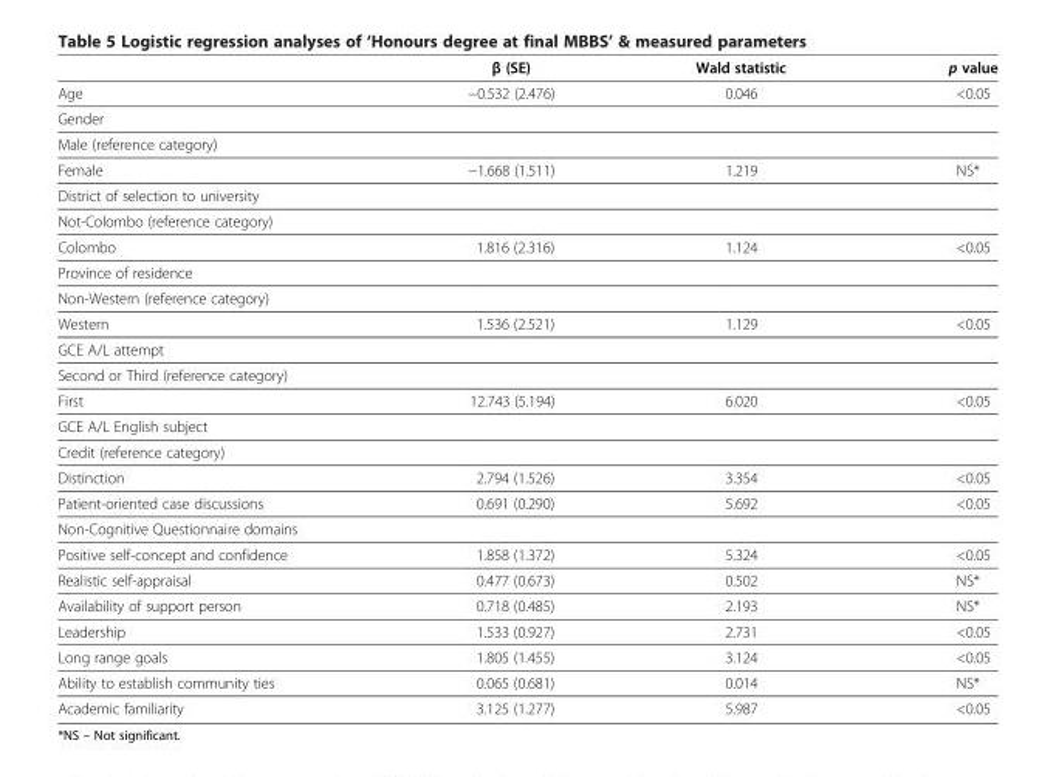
<table><thead><tr><td></td><td>β (SE)</td><td>Wald statistic</td><td>p value</td></tr></thead><tbody><tr><td>Age</td><td>−0.532 (2.476)</td><td>0.046</td><td>&lt;0.05</td></tr><tr><td colspan="4">Gender</td></tr><tr><td colspan="4">Male (reference category)</td></tr><tr><td>Female</td><td>−1.668 (1.511)</td><td>1.219</td><td>NS*</td></tr><tr><td colspan="4">District of selection to university</td></tr><tr><td colspan="4">Not-Colombo (reference category)</td></tr><tr><td>Colombo</td><td>1.816 (2.316)</td><td>1.124</td><td>&lt;0.05</td></tr><tr><td colspan="4">Province of residence</td></tr><tr><td colspan="4">Non-Western (reference category)</td></tr><tr><td>Western</td><td>1.536 (2.521)</td><td>1.129</td><td>&lt;0.05</td></tr><tr><td colspan="4">GCE A/L attempt</td></tr><tr><td colspan="4">Second or Third (reference category)</td></tr><tr><td>First</td><td>12.743 (5.194)</td><td>6.020</td><td>&lt;0.05</td></tr><tr><td colspan="4">GCE A/L English subject</td></tr><tr><td colspan="4">Credit (reference category)</td></tr><tr><td>Distinction</td><td>2.794 (1.526)</td><td>3.354</td><td>&lt;0.05</td></tr><tr><td>Patient-oriented case discussions</td><td>0.691 (0.290)</td><td>5.692</td><td>&lt;0.05</td></tr><tr><td colspan="4">Non-Cognitive Questionnaire domains</td></tr><tr><td>Positive self-concept and confidence</td><td>1.858 (1.372)</td><td>5.324</td><td>&lt;0.05</td></tr><tr><td>Realistic self-appraisal</td><td>0.477 (0.673)</td><td>0.502</td><td>NS*</td></tr><tr><td>Availability of support person</td><td>0.718 (0.485)</td><td>2.193</td><td>NS*</td></tr><tr><td>Leadership</td><td>1.533 (0.927)</td><td>2.731</td><td>&lt;0.05</td></tr><tr><td>Long range goals</td><td>1.805 (1.455)</td><td>3.124</td><td>&lt;0.05</td></tr><tr><td>Ability to establish community ties</td><td>0.065 (0.681)</td><td>0.014</td><td>NS*</td></tr><tr><td>Academic familiarity</td><td>3.125 (1.277)</td><td>5.987</td><td>&lt;0.05</td></tr></tbody></table>